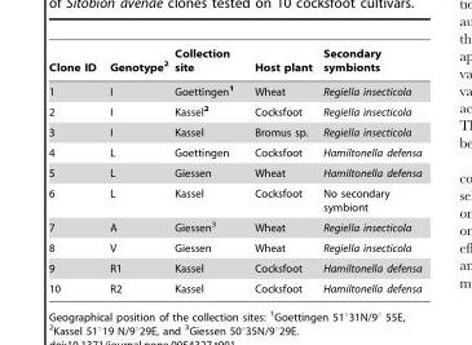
<table><thead><tr><td>Clone ID</td><td>Genotype<sup>2</sup></td><td>Collection site</td><td>Host plant</td><td>Secondary symbionts</td></tr></thead><tbody><tr><td>1</td><td>I</td><td>Goettingen<sup>1</sup></td><td>Wheat</td><td>Regiella insecticola</td></tr><tr><td>2</td><td>I</td><td>Kassel<sup>2</sup></td><td>Cocksfoot</td><td>Regiella insecticola</td></tr><tr><td>3</td><td>I</td><td>Kassel</td><td>Bromus sp.</td><td>Regiella insecticola</td></tr><tr><td>4</td><td>L</td><td>Goettingen</td><td>Cocksfoot</td><td>Hamiltonella defensa</td></tr><tr><td>5</td><td>L</td><td>Giessen</td><td>Wheat</td><td>Hamiltonella defensa</td></tr><tr><td>6</td><td>L</td><td>Kassel</td><td>Cocksfoot</td><td>No secondary symbiont</td></tr><tr><td>7</td><td>A</td><td>Giessen<sup>3</sup></td><td>Wheat</td><td>Regiella insecticola</td></tr><tr><td>8</td><td>V</td><td>Giessen</td><td>Wheat</td><td>Regiella insecticola</td></tr><tr><td>9</td><td>R1</td><td>Kassel</td><td>Cocksfoot</td><td>Hamiltonella defensa</td></tr><tr><td>10</td><td>R2</td><td>Kassel</td><td>Cocksfoot</td><td>Hamiltonella defensa</td></tr></tbody></table>